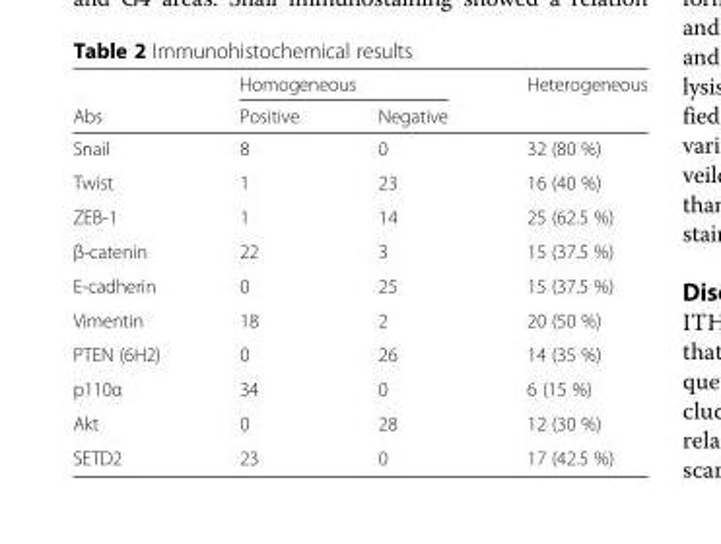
<table><thead><tr><td rowspan="2">Abs</td><td colspan="2">Homogeneous</td><td rowspan="2">Heterogeneous</td></tr><tr><td>Positive</td><td>Negative</td></tr></thead><tbody><tr><td>Snail</td><td>8</td><td>0</td><td>32 (80 %)</td></tr><tr><td>Twist</td><td>1</td><td>23</td><td>16 (40 %)</td></tr><tr><td>ZEB-1</td><td>1</td><td>14</td><td>25 (62.5 %)</td></tr><tr><td>β-catenin</td><td>22</td><td>3</td><td>15 (37.5 %)</td></tr><tr><td>E-cadherin</td><td>0</td><td>25</td><td>15 (37.5 %)</td></tr><tr><td>Vimentin</td><td>18</td><td>2</td><td>20 (50 %)</td></tr><tr><td>PTEN (6H2)</td><td>0</td><td>26</td><td>14 (35 %)</td></tr><tr><td>p110α</td><td>34</td><td>0</td><td>6 (15 %)</td></tr><tr><td>Akt</td><td>0</td><td>28</td><td>12 (30 %)</td></tr><tr><td>SETD2</td><td>23</td><td>0</td><td>17 (42.5 %)</td></tr></tbody></table>